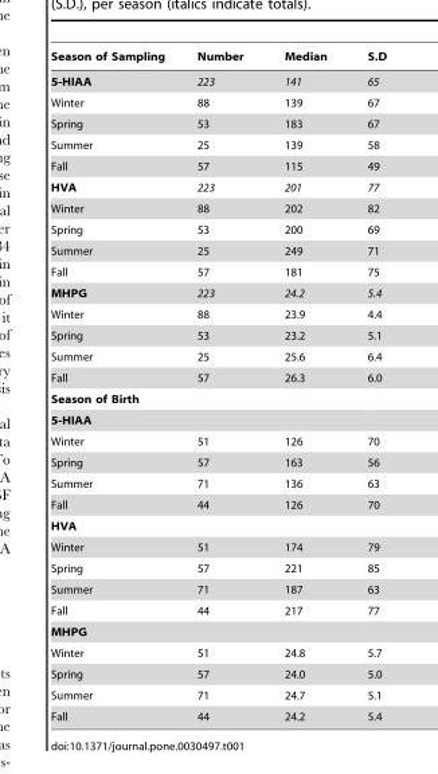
<table><thead><tr><td>Season of Sampling</td><td>Number</td><td>Median</td><td>S.D</td></tr></thead><tbody><tr><td>5-HIAA</td><td>223</td><td>141</td><td>65</td></tr><tr><td>Winter</td><td>88</td><td>139</td><td>67</td></tr><tr><td>Spring</td><td>53</td><td>183</td><td>67</td></tr><tr><td>Summer</td><td>25</td><td>139</td><td>58</td></tr><tr><td>Fall</td><td>57</td><td>115</td><td>49</td></tr><tr><td>HVA</td><td>223</td><td>201</td><td>77</td></tr><tr><td>Winter</td><td>88</td><td>202</td><td>82</td></tr><tr><td>Spring</td><td>53</td><td>200</td><td>69</td></tr><tr><td>Summer</td><td>25</td><td>249</td><td>71</td></tr><tr><td>Fall</td><td>57</td><td>181</td><td>75</td></tr><tr><td>MHPG</td><td>223</td><td>24.2</td><td>5.4</td></tr><tr><td>Winter</td><td>88</td><td>23.9</td><td>4.4</td></tr><tr><td>Spring</td><td>53</td><td>23.2</td><td>5.1</td></tr><tr><td>Summer</td><td>25</td><td>25.6</td><td>6.4</td></tr><tr><td>Fall</td><td>57</td><td>26.3</td><td>6.0</td></tr><tr><td colspan="4">Season of Birth</td></tr><tr><td colspan="4">5-HIAA</td></tr><tr><td>Winter</td><td>51</td><td>126</td><td>70</td></tr><tr><td>Spring</td><td>57</td><td>163</td><td>56</td></tr><tr><td>Summer</td><td>71</td><td>136</td><td>63</td></tr><tr><td>Fall</td><td>44</td><td>126</td><td>70</td></tr><tr><td colspan="4">HVA</td></tr><tr><td>Winter</td><td>51</td><td>174</td><td>79</td></tr><tr><td>Spring</td><td>57</td><td>221</td><td>85</td></tr><tr><td>Summer</td><td>71</td><td>187</td><td>63</td></tr><tr><td>Fall</td><td>44</td><td>217</td><td>77</td></tr><tr><td colspan="4">MHPG</td></tr><tr><td>Winter</td><td>51</td><td>24.8</td><td>5.7</td></tr><tr><td>Spring</td><td>57</td><td>24.0</td><td>5.0</td></tr><tr><td>Summer</td><td>71</td><td>24.7</td><td>5.1</td></tr><tr><td>Fall</td><td>44</td><td>24.2</td><td>5.4</td></tr></tbody></table>